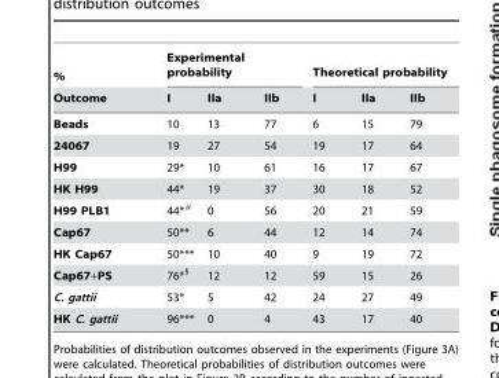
<table><thead><tr><td rowspan="2">% Outcome</td><td colspan="3">Experimental probability</td><td colspan="3">Theoretical probability</td></tr><tr><td>I</td><td>IIa</td><td>IIb</td><td>I</td><td>IIa</td><td>IIb</td></tr></thead><tbody><tr><td>Beads</td><td>10</td><td>13</td><td>77</td><td>6</td><td>15</td><td>79</td></tr><tr><td>24067</td><td>19</td><td>27</td><td>54</td><td>19</td><td>17</td><td>64</td></tr><tr><td>H99</td><td>29*</td><td>10</td><td>61</td><td>16</td><td>17</td><td>67</td></tr><tr><td>HK H99</td><td>44*</td><td>19</td><td>37</td><td>30</td><td>18</td><td>52</td></tr><tr><td>H99 PLB1</td><td>44*#</td><td>0</td><td>56</td><td>20</td><td>21</td><td>59</td></tr><tr><td>Cap67</td><td>50**</td><td>6</td><td>44</td><td>12</td><td>14</td><td>74</td></tr><tr><td>HK Cap67</td><td>50***</td><td>10</td><td>40</td><td>9</td><td>19</td><td>72</td></tr><tr><td>Cap67+PS</td><td>76*§</td><td>12</td><td>12</td><td>59</td><td>15</td><td>26</td></tr><tr><td>C. gattii</td><td>53*</td><td>5</td><td>42</td><td>24</td><td>27</td><td>49</td></tr><tr><td>HK C. gattii</td><td>96***</td><td>0</td><td>4</td><td>43</td><td>17</td><td>40</td></tr></tbody></table>